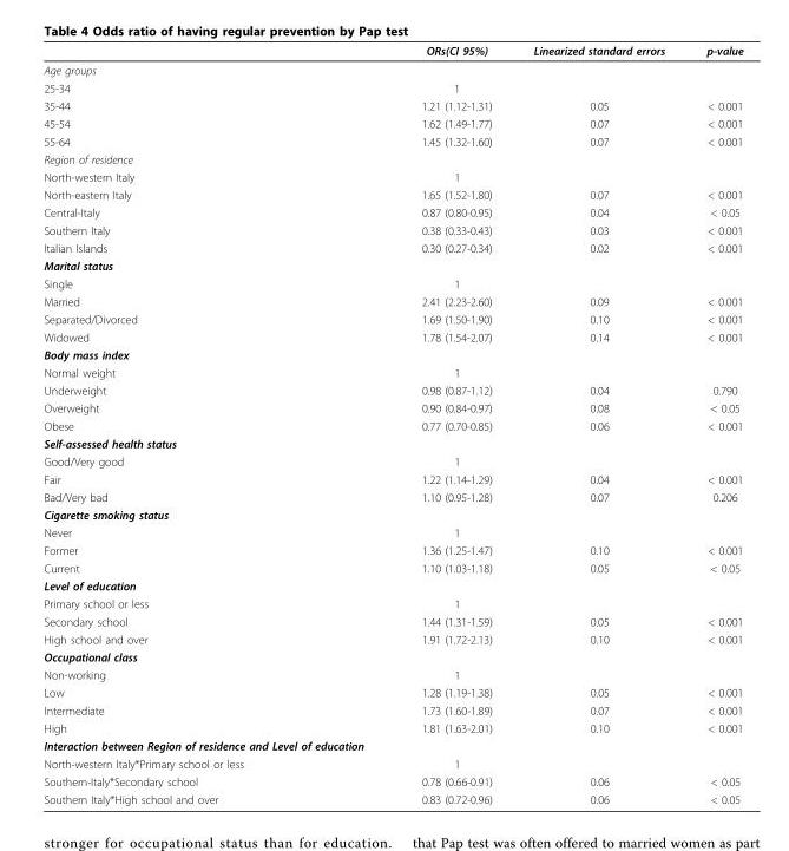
<table><thead><tr><td></td><td>ORs(CI 95%)</td><td>Linearized standard errors</td><td>p-value</td></tr></thead><tbody><tr><td colspan="4">Age groups</td></tr><tr><td>25-34</td><td>1</td><td></td><td></td></tr><tr><td>35-44</td><td>1.21 (1.12-1.31)</td><td>0.05</td><td>&lt; 0.001</td></tr><tr><td>45-54</td><td>1.62 (1.49-1.77)</td><td>0.07</td><td>&lt; 0.001</td></tr><tr><td>55-64</td><td>1.45 (1.32-1.60)</td><td>0.07</td><td>&lt; 0.001</td></tr><tr><td colspan="4">Region of residence</td></tr><tr><td>North-western Italy</td><td>1</td><td></td><td></td></tr><tr><td>North-eastern Italy</td><td>1.65 (1.52-1.80)</td><td>0.07</td><td>&lt; 0.001</td></tr><tr><td>Central-Italy</td><td>0.87 (0.80-0.95)</td><td>0.04</td><td>&lt; 0.05</td></tr><tr><td>Southern Italy</td><td>0.38 (0.33-0.43)</td><td>0.03</td><td>&lt; 0.001</td></tr><tr><td>Italian Islands</td><td>0.30 (0.27-0.34)</td><td>0.02</td><td>&lt; 0.001</td></tr><tr><td colspan="4">Marital status</td></tr><tr><td>Single</td><td>1</td><td></td><td></td></tr><tr><td>Married</td><td>2.41 (2.23-2.60)</td><td>0.09</td><td>&lt; 0.001</td></tr><tr><td>Separated/Divorced</td><td>1.69 (1.50-1.90)</td><td>0.10</td><td>&lt; 0.001</td></tr><tr><td>Widowed</td><td>1.78 (1.54-2.07)</td><td>0.14</td><td>&lt; 0.001</td></tr><tr><td colspan="4">Body mass index</td></tr><tr><td>Normal weight</td><td>1</td><td></td><td></td></tr><tr><td>Underweight</td><td>0.98 (0.87-1.12)</td><td>0.04</td><td>0.790</td></tr><tr><td>Overweight</td><td>0.90 (0.84-0.97)</td><td>0.08</td><td>&lt; 0.05</td></tr><tr><td>Obese</td><td>0.77 (0.70-0.85)</td><td>0.06</td><td>&lt; 0.001</td></tr><tr><td colspan="4">Self-assessed health status</td></tr><tr><td>Good/Very good</td><td>1</td><td></td><td></td></tr><tr><td>Fair</td><td>1.22 (1.14-1.29)</td><td>0.04</td><td>&lt; 0.001</td></tr><tr><td>Bad/Very bad</td><td>1.10 (0.95-1.28)</td><td>0.07</td><td>0.206</td></tr><tr><td colspan="4">Cigarette smoking status</td></tr><tr><td>Never</td><td>1</td><td></td><td></td></tr><tr><td>Former</td><td>1.36 (1.25-1.47)</td><td>0.10</td><td>&lt; 0.001</td></tr><tr><td>Current</td><td>1.10 (1.03-1.18)</td><td>0.05</td><td>&lt; 0.05</td></tr><tr><td colspan="4">Level of education</td></tr><tr><td>Primary school or less</td><td>1</td><td></td><td></td></tr><tr><td>Secondary school</td><td>1.44 (1.31-1.59)</td><td>0.05</td><td>&lt; 0.001</td></tr><tr><td>High school and over</td><td>1.91 (1.72-2.13)</td><td>0.10</td><td>&lt; 0.001</td></tr><tr><td colspan="4">Occupational class</td></tr><tr><td>Non-working</td><td>1</td><td></td><td></td></tr><tr><td>Low</td><td>1.28 (1.19-1.38)</td><td>0.05</td><td>&lt; 0.001</td></tr><tr><td>Intermediate</td><td>1.73 (1.60-1.89)</td><td>0.07</td><td>&lt; 0.001</td></tr><tr><td>High</td><td>1.81 (1.63-2.01)</td><td>0.10</td><td>&lt; 0.001</td></tr><tr><td colspan="4">Interaction between Region of residence and Level of education</td></tr><tr><td>North-western Italy*Primary school or less</td><td>1</td><td></td><td></td></tr><tr><td>Southern-Italy*Secondary school</td><td>0.78 (0.66-0.91)</td><td>0.06</td><td>&lt; 0.05</td></tr><tr><td>Southern Italy*High school and over</td><td>0.83 (0.72-0.96)</td><td>0.06</td><td>&lt; 0.05</td></tr></tbody></table>